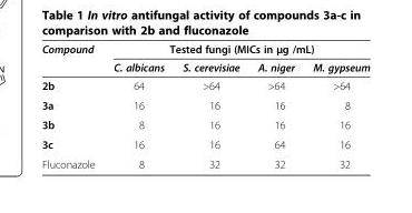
<table><thead><tr><td rowspan="2">Compound</td><td colspan="4">Tested fungi (MICs in μg /mL)</td></tr><tr><td>C. albicans</td><td>S. cerevisiae</td><td>A. niger</td><td>M. gypseum</td></tr></thead><tbody><tr><td>2b</td><td>64</td><td>&gt;64</td><td>&gt;64</td><td>&gt;64</td></tr><tr><td>3a</td><td>16</td><td>16</td><td>16</td><td>8</td></tr><tr><td>3b</td><td>8</td><td>16</td><td>16</td><td>16</td></tr><tr><td>3c</td><td>16</td><td>16</td><td>64</td><td>16</td></tr><tr><td>Fluconazole</td><td>8</td><td>32</td><td>32</td><td>32</td></tr></tbody></table>